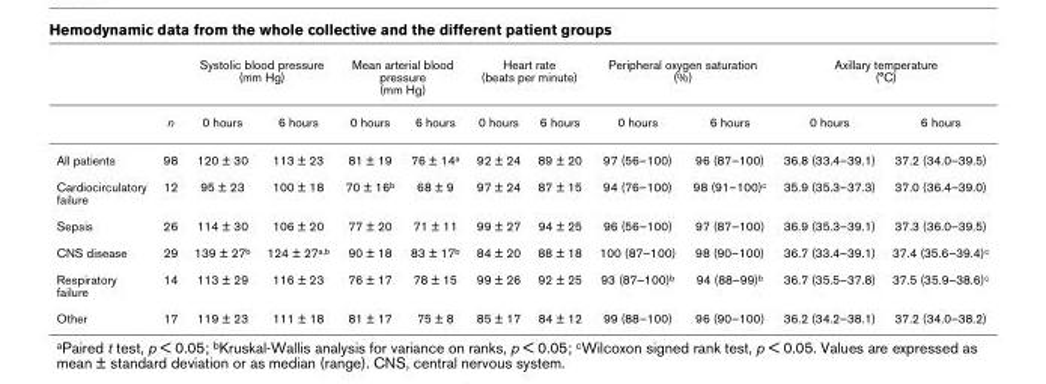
<table><thead><tr><td rowspan="2"></td><td rowspan="2">n</td><td colspan="2">Systolic blood pressure (mm Hg)</td><td colspan="2">Mean arterial blood pressure (mm Hg)</td><td colspan="2">Heart rate (beats per minute)</td><td colspan="2">Peripheral oxygen saturation (%)</td><td colspan="2">Axillary temperature (°C)</td></tr><tr><td>0 hours</td><td>6 hours</td><td>0 hours</td><td>6 hours</td><td>0 hours</td><td>6 hours</td><td>0 hours</td><td>6 hours</td><td>0 hours</td><td>6 hours</td></tr></thead><tbody><tr><td>All patients</td><td>98</td><td>120 ± 30</td><td>113 ± 23</td><td>81 ± 19</td><td>76 ± 14<sup>a</sup></td><td>92 ± 24</td><td>89 ± 20</td><td>97 (56–100)</td><td>96 (87–100)</td><td>36.8 (33.4–39.1)</td><td>37.2 (34.0–39.5)</td></tr><tr><td>Cardiocirculatory failure</td><td>12</td><td>95 ± 23</td><td>100 ± 18</td><td>70 ± 16<sup>b</sup></td><td>68 ± 9</td><td>97 ± 24</td><td>87 ± 15</td><td>94 (76–100)</td><td>98 (91–100)<sup>c</sup></td><td>35.9 (35.3–37.3)</td><td>37.0 (36.4–39.0)</td></tr><tr><td>Sepsis</td><td>26</td><td>114 ± 30</td><td>106 ± 20</td><td>77 ± 20</td><td>71 ± 11</td><td>99 ± 27</td><td>94 ± 25</td><td>96 (56–100)</td><td>97 (87–100)</td><td>36.9 (35.3–39.1)</td><td>37.3 (36.0–39.5)</td></tr><tr><td>CNS disease</td><td>29</td><td>139 ± 27<sup>b</sup></td><td>124 ± 27<sup>a,b</sup></td><td>90 ± 18</td><td>83 ± 17<sup>b</sup></td><td>84 ± 20</td><td>88 ± 18</td><td>100 (87–100)</td><td>98 (90–100)</td><td>36.7 (33.4–39.1)</td><td>37.4 (35.6–39.4)<sup>c</sup></td></tr><tr><td>Respiratory failure</td><td>14</td><td>113 ± 29</td><td>116 ± 23</td><td>76 ± 17</td><td>78 ± 15</td><td>99 ± 26</td><td>92 ± 25</td><td>93 (87–100)<sup>b</sup></td><td>94 (88–99)<sup>b</sup></td><td>36.7 (35.5–37.8)</td><td>37.5 (35.9–38.6)<sup>c</sup></td></tr><tr><td>Other</td><td>17</td><td>119 ± 23</td><td>111 ± 18</td><td>81 ± 17</td><td>75 ± 8</td><td>85 ± 17</td><td>84 ± 12</td><td>99 (88–100)</td><td>96 (90–100)</td><td>36.2 (34.2–38.1)</td><td>37.2 (34.0–38.2)</td></tr></tbody></table>